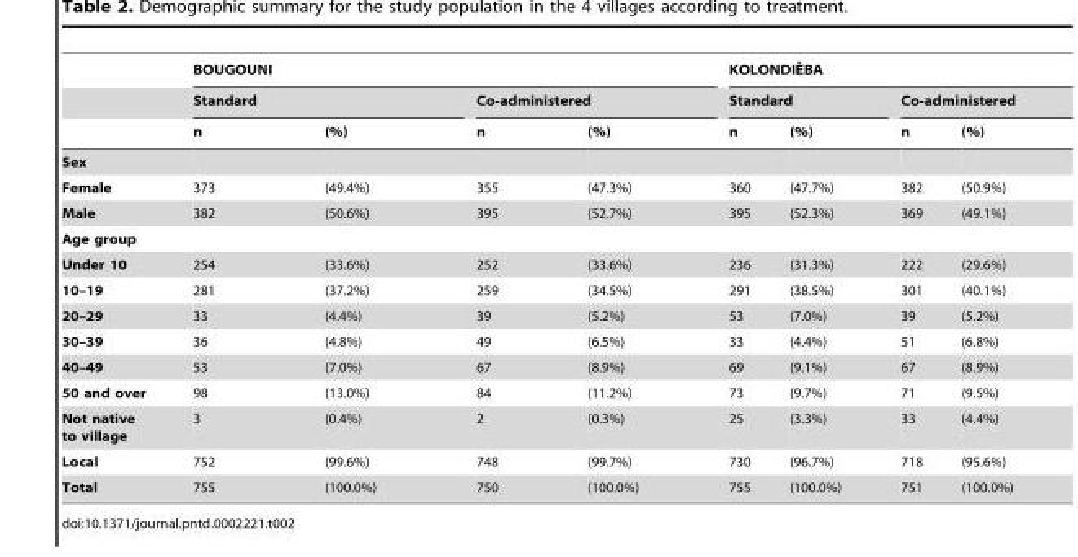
<table><thead><tr><td rowspan="3"></td><td colspan="4">BOUGOUNI</td><td colspan="4">KOLONDIE`BA</td></tr><tr><td colspan="2">Standard</td><td colspan="2">Co-administered</td><td colspan="2">Standard</td><td colspan="2">Co-administered</td></tr><tr><td>n</td><td>(%)</td><td>n</td><td>(%)</td><td>n</td><td>(%)</td><td>n</td><td>(%)</td></tr></thead><tbody><tr><td colspan="9">Sex</td></tr><tr><td>Female</td><td>373</td><td>(49.4%)</td><td>355</td><td>(47.3%)</td><td>360</td><td>(47.7%)</td><td>382</td><td>(50.9%)</td></tr><tr><td>Male</td><td>382</td><td>(50.6%)</td><td>395</td><td>(52.7%)</td><td>395</td><td>(52.3%)</td><td>369</td><td>(49.1%)</td></tr><tr><td colspan="9">Age group</td></tr><tr><td>Under 10</td><td>254</td><td>(33.6%)</td><td>252</td><td>(33.6%)</td><td>236</td><td>(31.3%)</td><td>222</td><td>(29.6%)</td></tr><tr><td>10–19</td><td>281</td><td>(37.2%)</td><td>259</td><td>(34.5%)</td><td>291</td><td>(38.5%)</td><td>301</td><td>(40.1%)</td></tr><tr><td>20–29</td><td>33</td><td>(4.4%)</td><td>39</td><td>(5.2%)</td><td>53</td><td>(7.0%)</td><td>39</td><td>(5.2%)</td></tr><tr><td>30–39</td><td>36</td><td>(4.8%)</td><td>49</td><td>(6.5%)</td><td>33</td><td>(4.4%)</td><td>51</td><td>(6.8%)</td></tr><tr><td>40–49</td><td>53</td><td>(7.0%)</td><td>67</td><td>(8.9%)</td><td>69</td><td>(9.1%)</td><td>67</td><td>(8.9%)</td></tr><tr><td>50 and over</td><td>98</td><td>(13.0%)</td><td>84</td><td>(11.2%)</td><td>73</td><td>(9.7%)</td><td>71</td><td>(9.5%)</td></tr><tr><td>Not native to village</td><td>3</td><td>(0.4%)</td><td>2</td><td>(0.3%)</td><td>25</td><td>(3.3%)</td><td>33</td><td>(4.4%)</td></tr><tr><td>Local</td><td>752</td><td>(99.6%)</td><td>748</td><td>(99.7%)</td><td>730</td><td>(96.7%)</td><td>718</td><td>(95.6%)</td></tr><tr><td>Total</td><td>755</td><td>(100.0%)</td><td>750</td><td>(100.0%)</td><td>755</td><td>(100.0%)</td><td>751</td><td>(100.0%)</td></tr></tbody></table>